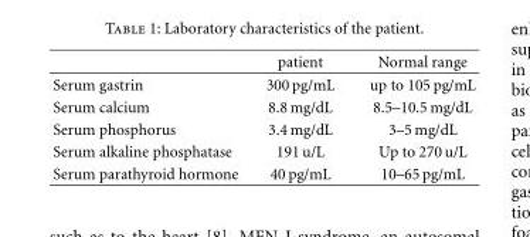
<table><thead><tr><td></td><td>patient</td><td>Normal range</td></tr></thead><tbody><tr><td>Serum gastrin</td><td>300 pg/mL</td><td>up to 105 pg/mL</td></tr><tr><td>Serum calcium</td><td>8.8 mg/dL</td><td>8.5–10.5 mg/dL</td></tr><tr><td>Serum phosphorus</td><td>3.4 mg/dL</td><td>3–5 mg/dL</td></tr><tr><td>Serum alkaline phosphatase</td><td>191 u/L</td><td>Up to 270 u/L</td></tr><tr><td>Serum parathyroid hormone</td><td>40 pg/mL</td><td>10–65 pg/mL</td></tr></tbody></table>